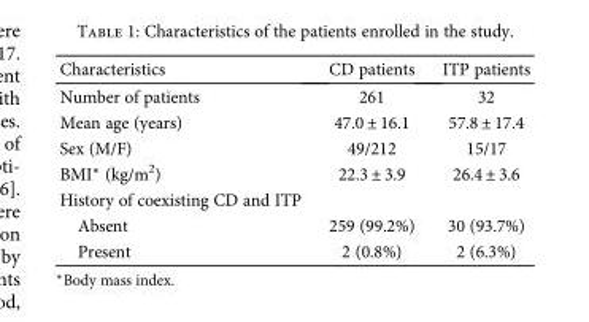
<table><thead><tr><td>Characteristics</td><td>CD patients</td><td>ITP patients</td></tr></thead><tbody><tr><td>Number of patients</td><td>261</td><td>32</td></tr><tr><td>Mean age (years)</td><td>47.0 ± 16.1</td><td>57.8 ± 17.4</td></tr><tr><td>Sex (M/F)</td><td>49/212</td><td>15/17</td></tr><tr><td>BMI∗ (kg/m<sup>2</sup>)</td><td>22.3 ± 3.9</td><td>26.4 ± 3.6</td></tr><tr><td colspan="3">History of coexisting CD and ITP</td></tr><tr><td>Absent</td><td>259 (99.2%)</td><td>30 (93.7%)</td></tr><tr><td>Present</td><td>2 (0.8%)</td><td>2 (6.3%)</td></tr></tbody></table>